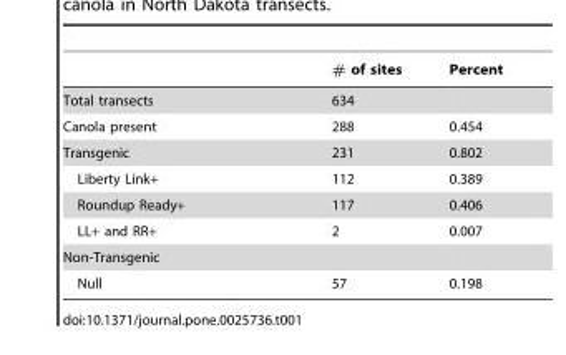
<table><thead><tr><td></td><td># of sites</td><td>Percent</td></tr></thead><tbody><tr><td>Total transects</td><td>634</td><td></td></tr><tr><td>Canola present</td><td>288</td><td>0.454</td></tr><tr><td>Transgenic</td><td>231</td><td>0.802</td></tr><tr><td>Liberty Link+</td><td>112</td><td>0.389</td></tr><tr><td>Roundup Ready+</td><td>117</td><td>0.406</td></tr><tr><td>LL+ and RR+</td><td>2</td><td>0.007</td></tr><tr><td colspan="3">Non-Transgenic</td></tr><tr><td>Null</td><td>57</td><td>0.198</td></tr></tbody></table>